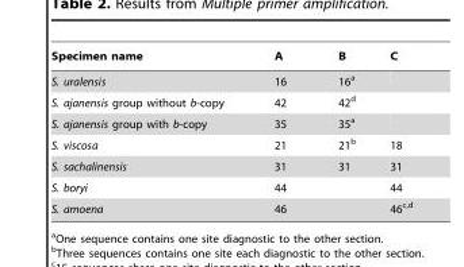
<table><thead><tr><td>Specimen name</td><td>A</td><td>B</td><td>C</td></tr></thead><tbody><tr><td>S. uralensis</td><td>16</td><td>16<sup>a</sup></td><td></td></tr><tr><td>S. ajanensis group without b-copy</td><td>42</td><td>42<sup>d</sup></td><td></td></tr><tr><td>S. ajanensis group with b-copy</td><td>35</td><td>35<sup>a</sup></td><td></td></tr><tr><td>S. viscosa</td><td>21</td><td>21<sup>b</sup></td><td>18</td></tr><tr><td>S. sachalinensis</td><td>31</td><td>31</td><td>31</td></tr><tr><td>S. boryi</td><td>44</td><td></td><td>44</td></tr><tr><td>S. amoena</td><td>46</td><td></td><td>46c,d</td></tr></tbody></table>